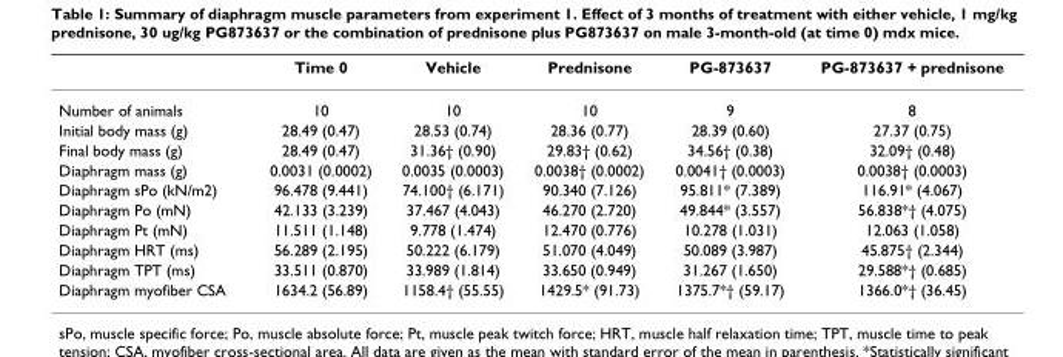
<table><thead><tr><td></td><td>Time 0</td><td>Vehicle</td><td>Prednisone</td><td>PG-873637</td><td>PG-873637 + prednisone</td></tr></thead><tbody><tr><td>Number of animals</td><td>10</td><td>10</td><td>10</td><td>9</td><td>8</td></tr><tr><td>Initial body mass (g)</td><td>28.49 (0.47)</td><td>28.53 (0.74)</td><td>28.36 (0.77)</td><td>28.39 (0.60)</td><td>27.37 (0.75)</td></tr><tr><td>Final body mass (g)</td><td>28.49 (0.47)</td><td>31.36† (0.90)</td><td>29.83† (0.62)</td><td>34.56† (0.38)</td><td>32.09† (0.48)</td></tr><tr><td>Diaphragm mass (g)</td><td>0.0031 (0.0002)</td><td>0.0035 (0.0003)</td><td>0.0038† (0.0002)</td><td>0.0041† (0.0003)</td><td>0.0038† (0.0003)</td></tr><tr><td>Diaphragm sPo (kN/m2)</td><td>96.478 (9.441)</td><td>74.100† (6.171)</td><td>90.340 (7.126)</td><td>95.811* (7.389)</td><td>116.91* (4.067)</td></tr><tr><td>Diaphragm Po (mN)</td><td>42.133 (3.239)</td><td>37.467 (4.043)</td><td>46.270 (2.720)</td><td>49.844* (3.557)</td><td>56.838*† (4.075)</td></tr><tr><td>Diaphragm Pt (mN)</td><td>11.511 (1.148)</td><td>9.778 (1.474)</td><td>12.470 (0.776)</td><td>10.278 (1.031)</td><td>12.063 (1.058)</td></tr><tr><td>Diaphragm HRT (ms)</td><td>56.289 (2.195)</td><td>50.222 (6.179)</td><td>51.070 (4.049)</td><td>50.089 (3.987)</td><td>45.875† (2.344)</td></tr><tr><td>Diaphragm TPT (ms)</td><td>33.511 (0.870)</td><td>33.989 (1.814)</td><td>33.650 (0.949)</td><td>31.267 (1.650)</td><td>29.588*† (0.685)</td></tr><tr><td>Diaphragm myofiber CSA</td><td>1634.2 (56.89)</td><td>1158.4† (55.55)</td><td>1429.5* (91.73)</td><td>1375.7*† (59.17)</td><td>1366.0*† (36.45)</td></tr></tbody></table>